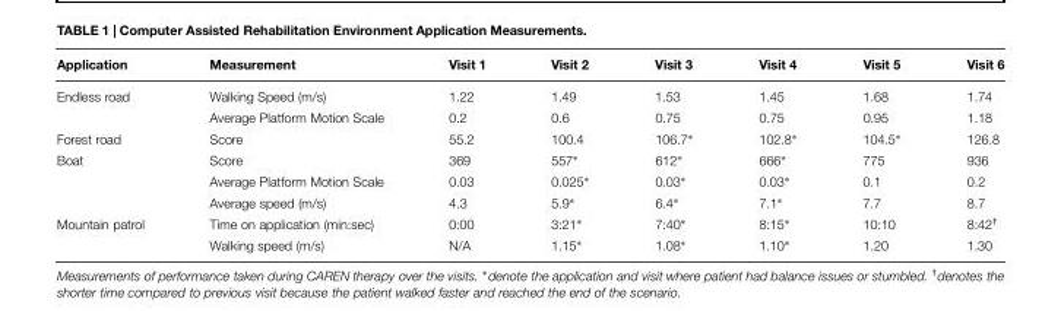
<table><thead><tr><td>Application</td><td>Measurement</td><td>Visit 1</td><td>Visit 2</td><td>Visit 3</td><td>Visit 4</td><td>Visit 5</td><td>Visit 6</td></tr></thead><tbody><tr><td rowspan="2">Endless road</td><td>Walking Speed (m/s)</td><td>1.22</td><td>1.49</td><td>1.53</td><td>1.45</td><td>1.68</td><td>1.74</td></tr><tr><td>Average Platform Motion Scale</td><td>0.2</td><td>0.6</td><td>0.75</td><td>0.75</td><td>0.95</td><td>1.18</td></tr><tr><td>Forest road</td><td>Score</td><td>55.2</td><td>100.4</td><td>106.7∗</td><td>102.8∗</td><td>104.5∗</td><td>126.8</td></tr><tr><td rowspan="3">Boat</td><td>Score</td><td>369</td><td>557∗</td><td>612∗</td><td>666∗</td><td>775</td><td>936</td></tr><tr><td>Average Platform Motion Scale</td><td>0.03</td><td>0.025∗</td><td>0.03∗</td><td>0.03∗</td><td>0.1</td><td>0.2</td></tr><tr><td>Average speed (m/s)</td><td>4.3</td><td>5.9∗</td><td>6.4∗</td><td>7.1∗</td><td>7.7</td><td>8.7</td></tr><tr><td rowspan="2">Mountain patrol</td><td>Time on application (min:sec)</td><td>0:00</td><td>3:21∗</td><td>7:40∗</td><td>8:15∗</td><td>10:10</td><td>8:42<sup>†</sup></td></tr><tr><td>Walking speed (m/s)</td><td>N/A</td><td>1.15∗</td><td>1.08∗</td><td>1.10∗</td><td>1.20</td><td>1.30</td></tr></tbody></table>